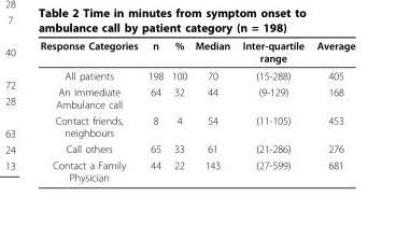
<table><thead><tr><td>Response Categories</td><td>n</td><td>%</td><td>Median</td><td>Inter-quartile range</td><td>Average</td></tr></thead><tbody><tr><td>All patients</td><td>198</td><td>100</td><td>70</td><td>(15-288)</td><td>405</td></tr><tr><td>An Immediate Ambulance call</td><td>64</td><td>32</td><td>44</td><td>(9-129)</td><td>168</td></tr><tr><td>Contact friends, neighbours</td><td>8</td><td>4</td><td>54</td><td>(11-105)</td><td>453</td></tr><tr><td>Call others</td><td>65</td><td>33</td><td>61</td><td>(21-286)</td><td>276</td></tr><tr><td>Contact a Family Physician</td><td>44</td><td>22</td><td>143</td><td>(27-599)</td><td>681</td></tr></tbody></table>